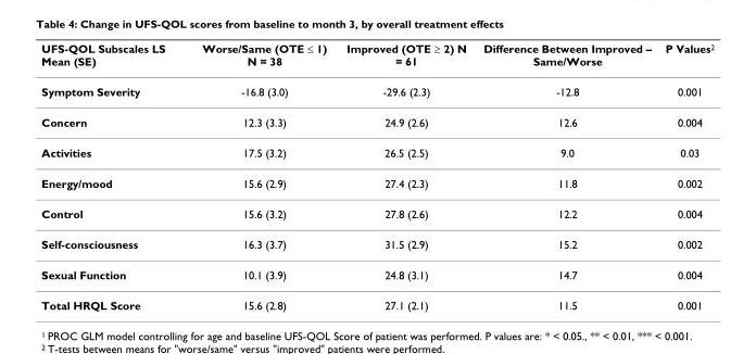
<table><thead><tr><td>UFS-QOL Subscales LS Mean (SE)</td><td>Worse/Same (OTE ≤ 1) N = 38</td><td>Improved (OTE ≥ 2) N = 61</td><td>Difference Between Improved – Same/Worse</td><td>P Values<sup>2</sup></td></tr></thead><tbody><tr><td>Symptom Severity</td><td>-16.8 (3.0)</td><td>-29.6 (2.3)</td><td>-12.8</td><td>0.001</td></tr><tr><td>Concern</td><td>12.3 (3.3)</td><td>24.9 (2.6)</td><td>12.6</td><td>0.004</td></tr><tr><td>Activities</td><td>17.5 (3.2)</td><td>26.5 (2.5)</td><td>9.0</td><td>0.03</td></tr><tr><td>Energy/mood</td><td>15.6 (2.9)</td><td>27.4 (2.3)</td><td>11.8</td><td>0.002</td></tr><tr><td>Control</td><td>15.6 (3.2)</td><td>27.8 (2.6)</td><td>12.2</td><td>0.004</td></tr><tr><td>Self-consciousness</td><td>16.3 (3.7)</td><td>31.5 (2.9)</td><td>15.2</td><td>0.002</td></tr><tr><td>Sexual Function</td><td>10.1 (3.9)</td><td>24.8 (3.1)</td><td>14.7</td><td>0.004</td></tr><tr><td>Total HRQL Score</td><td>15.6 (2.8)</td><td>27.1 (2.1)</td><td>11.5</td><td>0.001</td></tr></tbody></table>